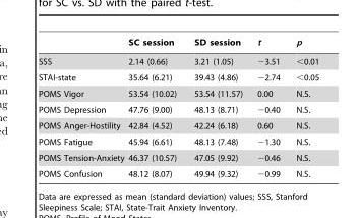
<table><thead><tr><td></td><td>SC session</td><td>SD session</td><td>t</td><td>p</td></tr></thead><tbody><tr><td>SSS</td><td>2.14 (0.66)</td><td>3.21 (1.05)</td><td>−3.51</td><td>&lt;0.01</td></tr><tr><td>STAI-state</td><td>35.64 (6.21)</td><td>39.43 (4.86)</td><td>−2.74</td><td>&lt;0.05</td></tr><tr><td>POMS Vigor</td><td>53.54 (10.02)</td><td>53.54 (11.57)</td><td>0.00</td><td>N.S.</td></tr><tr><td>POMS Depression</td><td>47.76 (9.00)</td><td>48.13 (8.71)</td><td>−0.40</td><td>N.S.</td></tr><tr><td>POMS Anger-Hostility</td><td>42.84 (4.52)</td><td>42.24 (6.18)</td><td>0.60</td><td>N.S.</td></tr><tr><td>POMS Fatigue</td><td>45.94 (6.61)</td><td>48.13 (7.48)</td><td>−1.30</td><td>N.S.</td></tr><tr><td>POMS Tension-Anxiety</td><td>46.37 (10.57)</td><td>47.05 (9.92)</td><td>−0.46</td><td>N.S.</td></tr><tr><td>POMS Confusion</td><td>48.12 (8.07)</td><td>49.94 (9.32)</td><td>−0.99</td><td>N.S.</td></tr></tbody></table>